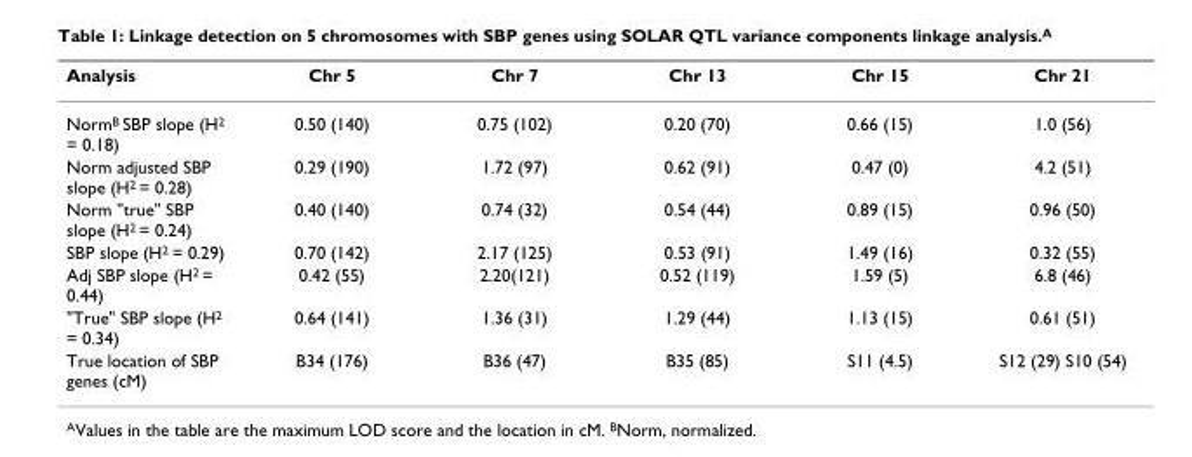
<table><thead><tr><td>Analysis</td><td>Chr 5</td><td>Chr 7</td><td>Chr 13</td><td>Chr 15</td><td>Chr 21</td></tr></thead><tbody><tr><td>NormB SBP slope (H2 = 0.18)</td><td>0.50 (140)</td><td>0.75 (102)</td><td>0.20 (70)</td><td>0.66 (15)</td><td>1.0 (56)</td></tr><tr><td>Norm adjusted SBP slope (H2 = 0.28)</td><td>0.29 (190)</td><td>1.72 (97)</td><td>0.62 (91)</td><td>0.47 (0)</td><td>4.2 (51)</td></tr><tr><td>Norm &quot;true&quot; SBP slope (H2 = 0.24)</td><td>0.40 (140)</td><td>0.74 (32)</td><td>0.54 (44)</td><td>0.89 (15)</td><td>0.96 (50)</td></tr><tr><td>SBP slope (H2 = 0.29)</td><td>0.70 (142)</td><td>2.17 (125)</td><td>0.53 (91)</td><td>1.49 (16)</td><td>0.32 (55)</td></tr><tr><td>Adj SBP slope (H2 = 0.44)</td><td>0.42 (55)</td><td>2.20(121)</td><td>0.52 (119)</td><td>1.59 (5)</td><td>6.8 (46)</td></tr><tr><td>&quot;True&quot; SBP slope (H2 = 0.34)</td><td>0.64 (141)</td><td>1.36 (31)</td><td>1.29 (44)</td><td>1.13 (15)</td><td>0.61 (51)</td></tr><tr><td>True location of SBP genes (cM)</td><td>B34 (176)</td><td>B36 (47)</td><td>B35 (85)</td><td>S11 (4.5)</td><td>S12 (29) S10 (54)</td></tr></tbody></table>